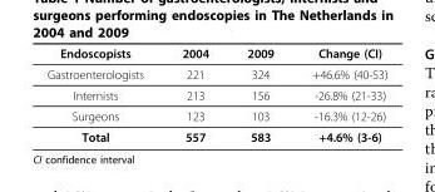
<table><thead><tr><td>Endoscopists</td><td>2004</td><td>2009</td><td>Change (CI)</td></tr></thead><tbody><tr><td>Gastroenterologists</td><td>221</td><td>324</td><td>+46.6% (40-53)</td></tr><tr><td>Internists</td><td>213</td><td>156</td><td>-26.8% (21-33)</td></tr><tr><td>Surgeons</td><td>123</td><td>103</td><td>-16.3% (12-26)</td></tr><tr><td>Total</td><td>557</td><td>583</td><td>+4.6% (3-6)</td></tr></tbody></table>